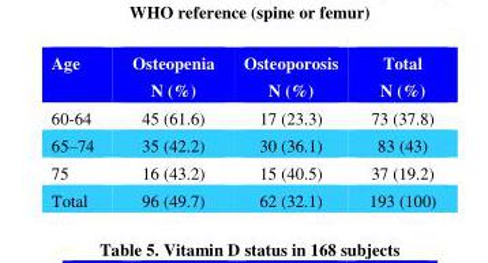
<table><thead><tr><td>Age</td><td>Osteopenia N (%)</td><td>Osteoporosis N (%)</td><td>Total N (%)</td></tr></thead><tbody><tr><td>60-64</td><td>45 (61.6)</td><td>17 (23.3)</td><td>73 (37.8)</td></tr><tr><td>65–74</td><td>35 (42.2)</td><td>30 (36.1)</td><td>83 (43)</td></tr><tr><td>75</td><td>16 (43.2)</td><td>15 (40.5)</td><td>37 (19.2)</td></tr><tr><td>Total</td><td>96 (49.7)</td><td>62 (32.1)</td><td>193 (100)</td></tr></tbody></table>